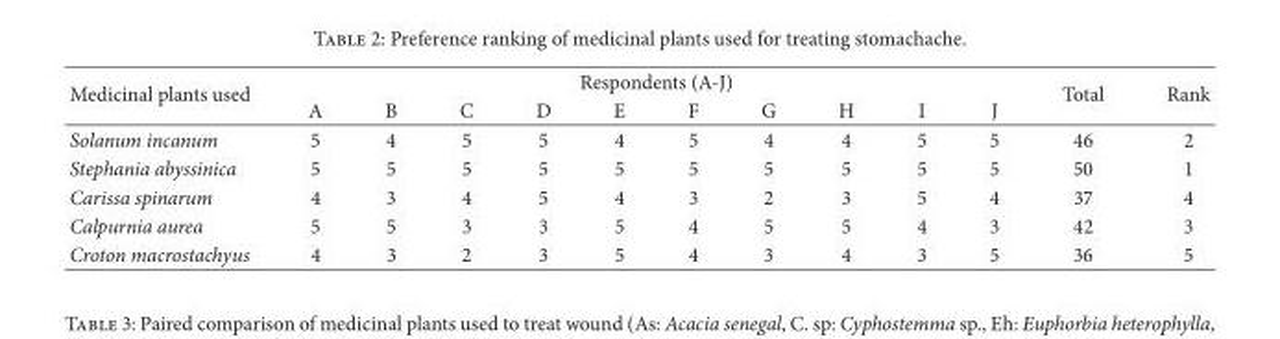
<table><thead><tr><td rowspan="2">Medicinal plants used</td><td colspan="10">Respondents (A-J)</td><td rowspan="2">Total</td><td rowspan="2">Rank</td></tr><tr><td>A</td><td>B</td><td>C</td><td>D</td><td>E</td><td>F</td><td>G</td><td>H</td><td>I</td><td>J</td></tr></thead><tbody><tr><td>Solanum incanum</td><td>5</td><td>4</td><td>5</td><td>5</td><td>4</td><td>5</td><td>4</td><td>4</td><td>5</td><td>5</td><td>46</td><td>2</td></tr><tr><td>Stephania abyssinica</td><td>5</td><td>5</td><td>5</td><td>5</td><td>5</td><td>5</td><td>5</td><td>5</td><td>5</td><td>5</td><td>50</td><td>1</td></tr><tr><td>Carissa spinarum</td><td>4</td><td>3</td><td>4</td><td>5</td><td>4</td><td>3</td><td>2</td><td>3</td><td>5</td><td>4</td><td>37</td><td>4</td></tr><tr><td>Calpurnia aurea</td><td>5</td><td>5</td><td>3</td><td>3</td><td>5</td><td>4</td><td>5</td><td>5</td><td>4</td><td>3</td><td>42</td><td>3</td></tr><tr><td>Croton macrostachyus</td><td>4</td><td>3</td><td>2</td><td>3</td><td>5</td><td>4</td><td>3</td><td>4</td><td>3</td><td>5</td><td>36</td><td>5</td></tr></tbody></table>